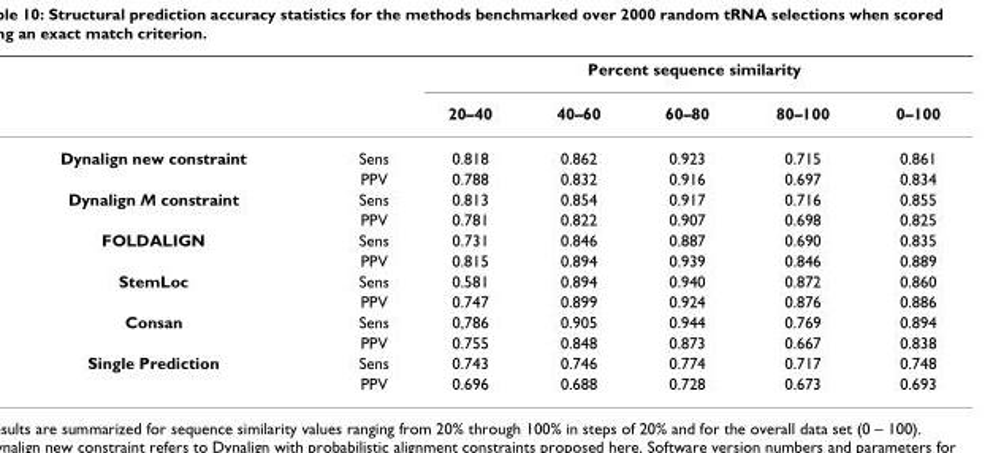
<table><thead><tr><td rowspan="2"></td><td rowspan="2"></td><td colspan="5">Percent sequence similarity</td></tr><tr><td>20–40</td><td>40–60</td><td>60–80</td><td>80–100</td><td>0–100</td></tr></thead><tbody><tr><td rowspan="2">Dynalign new constraint</td><td>Sens</td><td>0.818</td><td>0.862</td><td>0.923</td><td>0.715</td><td>0.861</td></tr><tr><td>PPV</td><td>0.788</td><td>0.832</td><td>0.916</td><td>0.697</td><td>0.834</td></tr><tr><td rowspan="2">Dynalign M constraint</td><td>Sens</td><td>0.813</td><td>0.854</td><td>0.917</td><td>0.716</td><td>0.855</td></tr><tr><td>PPV</td><td>0.781</td><td>0.822</td><td>0.907</td><td>0.698</td><td>0.825</td></tr><tr><td rowspan="2">FOLDALIGN</td><td>Sens</td><td>0.731</td><td>0.846</td><td>0.887</td><td>0.690</td><td>0.835</td></tr><tr><td>PPV</td><td>0.815</td><td>0.894</td><td>0.939</td><td>0.846</td><td>0.889</td></tr><tr><td rowspan="2">StemLoc</td><td>Sens</td><td>0.581</td><td>0.894</td><td>0.940</td><td>0.872</td><td>0.860</td></tr><tr><td>PPV</td><td>0.747</td><td>0.899</td><td>0.924</td><td>0.876</td><td>0.886</td></tr><tr><td rowspan="2">Consan</td><td>Sens</td><td>0,786</td><td>0.905</td><td>0.944</td><td>0.769</td><td>0.894</td></tr><tr><td>PPV</td><td>0.755</td><td>0.848</td><td>0.873</td><td>0.667</td><td>0.838</td></tr><tr><td rowspan="2">Single Prediction</td><td>Sens</td><td>0.743</td><td>0.746</td><td>0.774</td><td>0.717</td><td>0.748</td></tr><tr><td>PPV</td><td>0.696</td><td>0.688</td><td>0.728</td><td>0.673</td><td>0.693</td></tr></tbody></table>